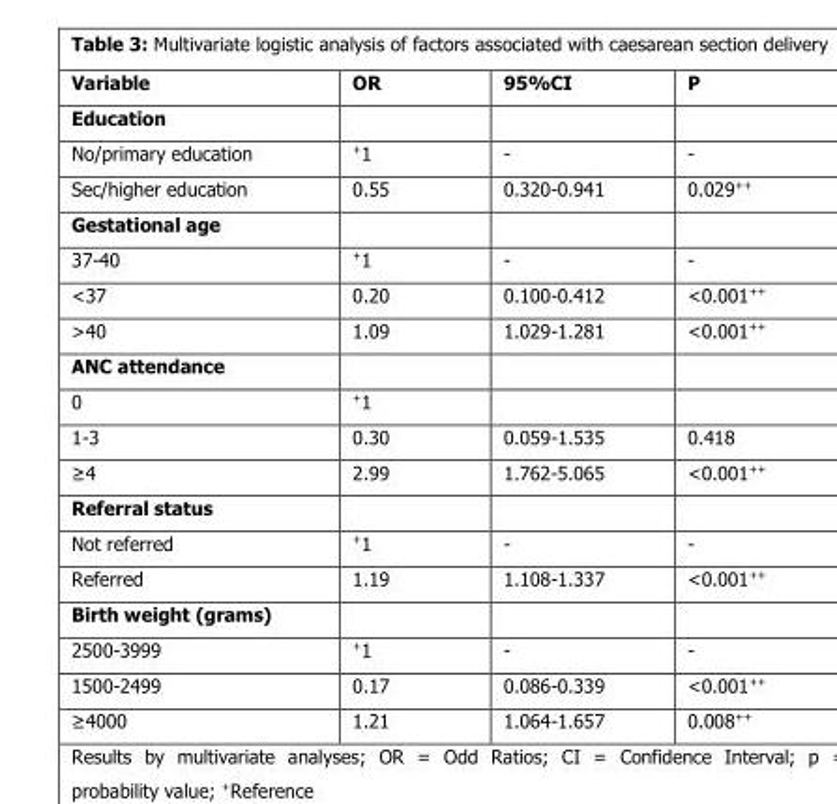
<table><thead><tr><td>Variable</td><td>OR</td><td>95%CI</td><td>P</td></tr></thead><tbody><tr><td colspan="4">Education</td></tr><tr><td>No/primary education</td><td><sup>+</sup>1</td><td>-</td><td>-</td></tr><tr><td>Sec/higher education</td><td>0.55</td><td>0.320-0.941</td><td>0.029<sup>++</sup></td></tr><tr><td colspan="4">Gestational age</td></tr><tr><td>37-40</td><td><sup>+</sup>1</td><td>-</td><td>-</td></tr><tr><td>&lt;37</td><td>0.20</td><td>0.100-0.412</td><td>&lt;0.001<sup>++</sup></td></tr><tr><td>&gt;40</td><td>1.09</td><td>1.029-1.281</td><td>&lt;0.001<sup>++</sup></td></tr><tr><td colspan="4">ANC attendance</td></tr><tr><td>0</td><td><sup>+</sup>1</td><td></td><td></td></tr><tr><td>1-3</td><td>0.30</td><td>0.059-1.535</td><td>0.418</td></tr><tr><td>≥4</td><td>2.99</td><td>1.762-5.065</td><td>&lt;0.001<sup>++</sup></td></tr><tr><td colspan="4">Referral status</td></tr><tr><td>Not referred</td><td><sup>+</sup>1</td><td>-</td><td>-</td></tr><tr><td>Referred</td><td>1.19</td><td>1.108-1.337</td><td>&lt;0.001<sup>++</sup></td></tr><tr><td colspan="4">Birth weight (grams)</td></tr><tr><td>2500-3999</td><td><sup>+</sup>1</td><td>-</td><td>-</td></tr><tr><td>1500-2499</td><td>0.17</td><td>0.086-0.339</td><td>&lt;0.001<sup>++</sup></td></tr><tr><td>≥4000</td><td>1.21</td><td>1.064-1.657</td><td>0.008<sup>++</sup></td></tr></tbody></table>